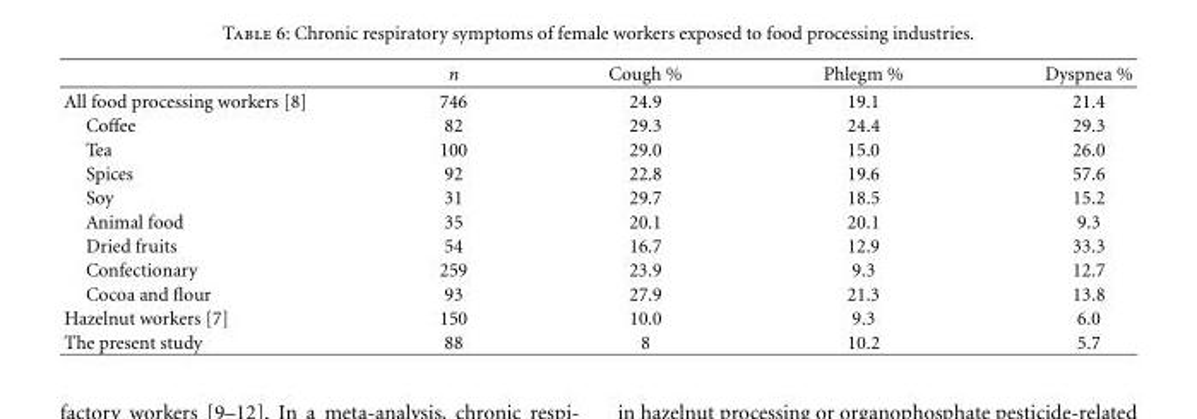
<table><thead><tr><td></td><td>n</td><td>Cough %</td><td>Phlegm %</td><td>Dyspnea %</td></tr></thead><tbody><tr><td>All food processing workers [8]</td><td>746</td><td>24.9</td><td>19.1</td><td>21.4</td></tr><tr><td>Coffee</td><td>82</td><td>29.3</td><td>24.4</td><td>29.3</td></tr><tr><td>Tea</td><td>100</td><td>29.0</td><td>15.0</td><td>26.0</td></tr><tr><td>Spices</td><td>92</td><td>22.8</td><td>19.6</td><td>57.6</td></tr><tr><td>Soy</td><td>31</td><td>29.7</td><td>18.5</td><td>15.2</td></tr><tr><td>Animal food</td><td>35</td><td>20.1</td><td>20.1</td><td>9.3</td></tr><tr><td>Dried fruits</td><td>54</td><td>16.7</td><td>12.9</td><td>33.3</td></tr><tr><td>Confectionary</td><td>259</td><td>23.9</td><td>9.3</td><td>12.7</td></tr><tr><td>Cocoa and flour</td><td>93</td><td>27.9</td><td>21.3</td><td>13.8</td></tr><tr><td>Hazelnut workers [7]</td><td>150</td><td>10.0</td><td>9.3</td><td>6.0</td></tr><tr><td>The present study</td><td>88</td><td>8</td><td>10.2</td><td>5.7</td></tr></tbody></table>